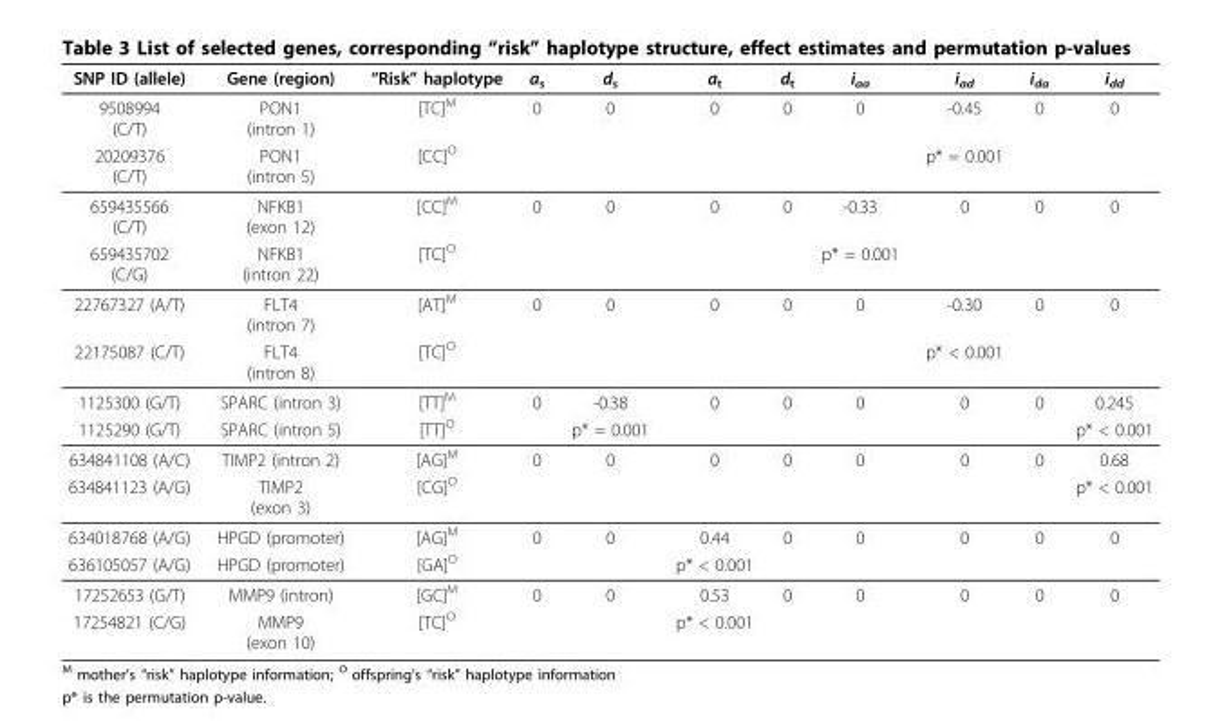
<table><thead><tr><td>SNP ID (allele)</td><td>Gene (region)</td><td>“Risk” haplotype</td><td>as</td><td>ds</td><td>at</td><td>dt</td><td>iaa</td><td>iad</td><td>ida</td><td>idd</td></tr></thead><tbody><tr><td>9508994 (C/T)</td><td>PON1 (intron 1)</td><td>[TC]M</td><td>0</td><td>0</td><td>0</td><td>0</td><td>0</td><td>-0.45</td><td>0</td><td>0</td></tr><tr><td>20209376 (C/T)</td><td>PON1 (intron 5)</td><td>[CC]O</td><td></td><td></td><td></td><td></td><td></td><td>p* = 0.001</td><td></td><td></td></tr><tr><td>659435566 (C/T)</td><td>NFKB1 (exon 12)</td><td>[CC]M</td><td>0</td><td>0</td><td>0</td><td>0</td><td>-0.33</td><td>0</td><td>0</td><td>0</td></tr><tr><td>659435702 (C/G)</td><td>NFKB1 (intron 22)</td><td>[TC]O</td><td></td><td></td><td></td><td></td><td>p* = 0.001</td><td></td><td></td><td></td></tr><tr><td>22767327 (A/T)</td><td>FLT4 (intron 7)</td><td>[AT]M</td><td>0</td><td>0</td><td>0</td><td>0</td><td>0</td><td>-0.30</td><td>0</td><td>0</td></tr><tr><td>22175087 (C/T)</td><td>FLT4 (intron 8)</td><td>[TC]O</td><td></td><td></td><td></td><td></td><td></td><td>p* &lt; 0.001</td><td></td><td></td></tr><tr><td>1125300 (G/T)</td><td>SPARC (intron 3)</td><td>[TT]M</td><td>0</td><td>-0.38</td><td>0</td><td>0</td><td>0</td><td>0</td><td>0</td><td>0.245</td></tr><tr><td>1125290 (G/T)</td><td>SPARC (intron 5)</td><td>[TT]O</td><td></td><td>p* = 0.001</td><td></td><td></td><td></td><td></td><td></td><td>p* &lt; 0.001</td></tr><tr><td>634841108 (A/C)</td><td>TIMP2 (intron 2)</td><td>[AG]M</td><td>0</td><td>0</td><td>0</td><td>0</td><td>0</td><td>0</td><td>0</td><td>0.68</td></tr><tr><td>634841123 (A/G)</td><td>TIMP2 (exon 3)</td><td>[CG]O</td><td></td><td></td><td></td><td></td><td></td><td></td><td></td><td>p* &lt; 0.001</td></tr><tr><td>634018768 (A/G)</td><td>HPGD (promoter)</td><td>[AG]M</td><td>0</td><td>0</td><td>0.44</td><td>0</td><td>0</td><td>0</td><td>0</td><td>0</td></tr><tr><td>636105057 (A/G)</td><td>HPGD (promoter)</td><td>[GA]O</td><td></td><td></td><td>p* &lt; 0.001</td><td></td><td></td><td></td><td></td><td></td></tr><tr><td>17252653 (G/T)</td><td>MMP9 (intron)</td><td>[GC]M</td><td>0</td><td>0</td><td>0.53</td><td>0</td><td>0</td><td>0</td><td>0</td><td>0</td></tr><tr><td>17254821 (C/G)</td><td>MMP9 (exon 10)</td><td>[TC]O</td><td></td><td></td><td>p* &lt; 0.001</td><td></td><td></td><td></td><td></td><td></td></tr></tbody></table>